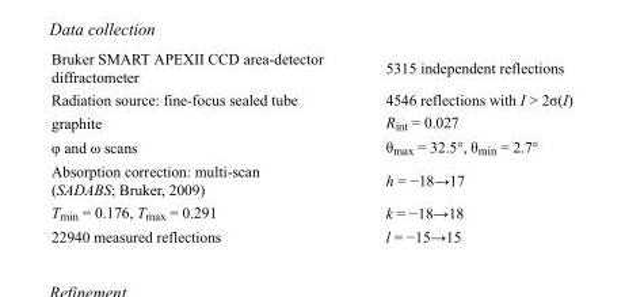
<table><tbody><tr><td>Bruker SMART APEXII CCD area-detector diffractometer</td><td>5315 independent reflections</td></tr><tr><td>Radiation source: fine-focus sealed tube</td><td>4546 reflections with I &gt; 2σ(I)</td></tr><tr><td>graphite</td><td>R<sub>int</sub> = 0.027</td></tr><tr><td>φ and ω scans</td><td>θ<sub>max</sub> = 32.5°, θ<sub>min</sub> = 2.7°</td></tr><tr><td>Absorption correction: multi-scan (SADABS; Bruker, 2009)</td><td>h = −18→17</td></tr><tr><td>T<sub>min</sub> = 0.176, T<sub>max</sub> = 0.291</td><td>k = −18→18</td></tr><tr><td>22940 measured reflections</td><td>l = −15→15</td></tr></tbody></table>